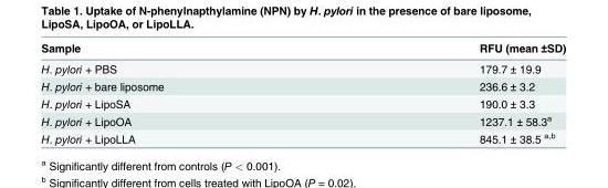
<table><thead><tr><td>Sample</td><td>RFU (mean ±SD)</td></tr></thead><tbody><tr><td>H. pylori + PBS</td><td>179.7 ± 19.9</td></tr><tr><td>H. pylori + bare liposome</td><td>236.6 ± 3.2</td></tr><tr><td>H. pylori + LipoSA</td><td>190.0 ± 3.3</td></tr><tr><td>H. pylori + LipoOA</td><td>1237.1 ± 58.3<sup>a</sup></td></tr><tr><td>H. pylori + LipoLLA</td><td>845.1 ± 38.5 <sup>a,b</sup></td></tr></tbody></table>